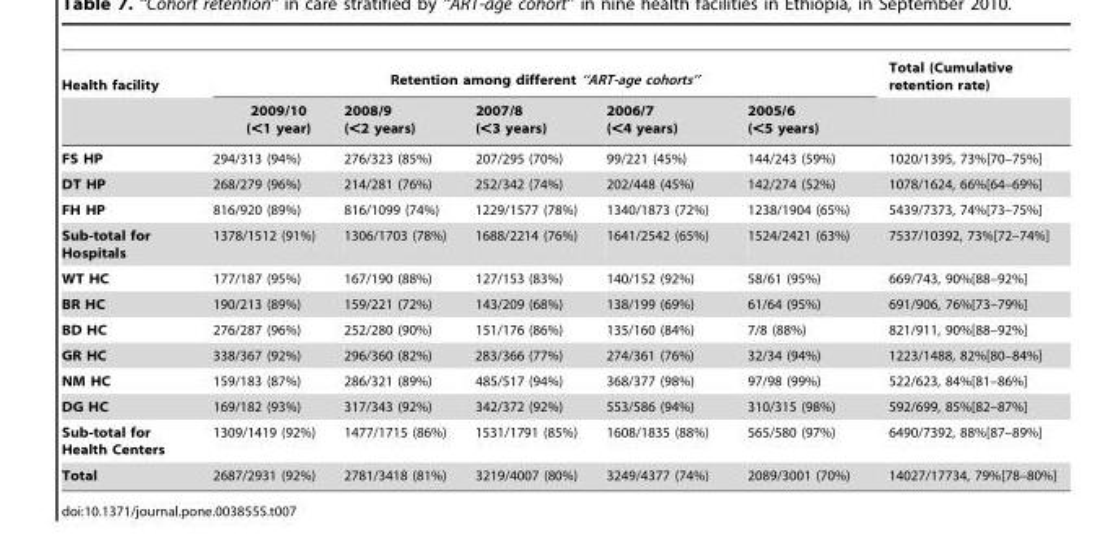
<table><thead><tr><td rowspan="2">Health facility</td><td colspan="5">Retention among different ‘‘ART-age cohorts’’</td><td rowspan="2">Total (Cumulative retention rate)</td></tr><tr><td>2009/10 (&lt;1 year)</td><td>2008/9 (&lt;2 years)</td><td>2007/8 (&lt;3 years)</td><td>2006/7 (&lt;4 years)</td><td>2005/6 (&lt;5 years)</td></tr></thead><tbody><tr><td>FS HP</td><td>294/313 (94%)</td><td>276/323 (85%)</td><td>207/295 (70%)</td><td>99/221 (45%)</td><td>144/243 (59%)</td><td>1020/1395, 73%[70–75%]</td></tr><tr><td>DT HP</td><td>268/279 (96%)</td><td>214/281 (76%)</td><td>252/342 (74%)</td><td>202/448 (45%)</td><td>142/274 (52%)</td><td>1078/1624, 66%[64–69%]</td></tr><tr><td>FH HP</td><td>816/920 (89%)</td><td>816/1099 (74%)</td><td>1229/1577 (78%)</td><td>1340/1873 (72%)</td><td>1238/1904 (65%)</td><td>5439/7373, 74%[73–75%]</td></tr><tr><td>Sub-total for Hospitals</td><td>1378/1512 (91%)</td><td>1306/1703 (78%)</td><td>1688/2214 (76%)</td><td>1641/2542 (65%)</td><td>1524/2421 (63%)</td><td>7537/10392, 73%[72–74%]</td></tr><tr><td>WT HC</td><td>177/187 (95%)</td><td>167/190 (88%)</td><td>127/153 (83%)</td><td>140/152 (92%)</td><td>58/61 (95%)</td><td>669/743, 90%[88–92%]</td></tr><tr><td>BR HC</td><td>190/213 (89%)</td><td>159/221 (72%)</td><td>143/209 (68%)</td><td>138/199 (69%)</td><td>61/64 (95%)</td><td>691/906, 76%[73–79%]</td></tr><tr><td>BD HC</td><td>276/287 (96%)</td><td>252/280 (90%)</td><td>151/176 (86%)</td><td>135/160 (84%)</td><td>7/8 (88%)</td><td>821/911, 90%[88–92%]</td></tr><tr><td>GR HC</td><td>338/367 (92%)</td><td>296/360 (82%)</td><td>283/366 (77%)</td><td>274/361 (76%)</td><td>32/34 (94%)</td><td>1223/1488, 82%[80–84%]</td></tr><tr><td>NM HC</td><td>159/183 (87%)</td><td>286/321 (89%)</td><td>485/517 (94%)</td><td>368/377 (98%)</td><td>97/98 (99%)</td><td>522/623, 84%[81–86%]</td></tr><tr><td>DG HC</td><td>169/182 (93%)</td><td>317/343 (92%)</td><td>342/372 (92%)</td><td>553/586 (94%)</td><td>310/315 (98%)</td><td>592/699, 85%[82–87%]</td></tr><tr><td>Sub-total for Health Centers</td><td>1309/1419 (92%)</td><td>1477/1715 (86%)</td><td>1531/1791 (85%)</td><td>1608/1835 (88%)</td><td>565/580 (97%)</td><td>6490/7392, 88%[87–89%]</td></tr><tr><td>Total</td><td>2687/2931 (92%)</td><td>2781/3418 (81%)</td><td>3219/4007 (80%)</td><td>3249/4377 (74%)</td><td>2089/3001 (70%)</td><td>14027/17734, 79%[78–80%]</td></tr></tbody></table>